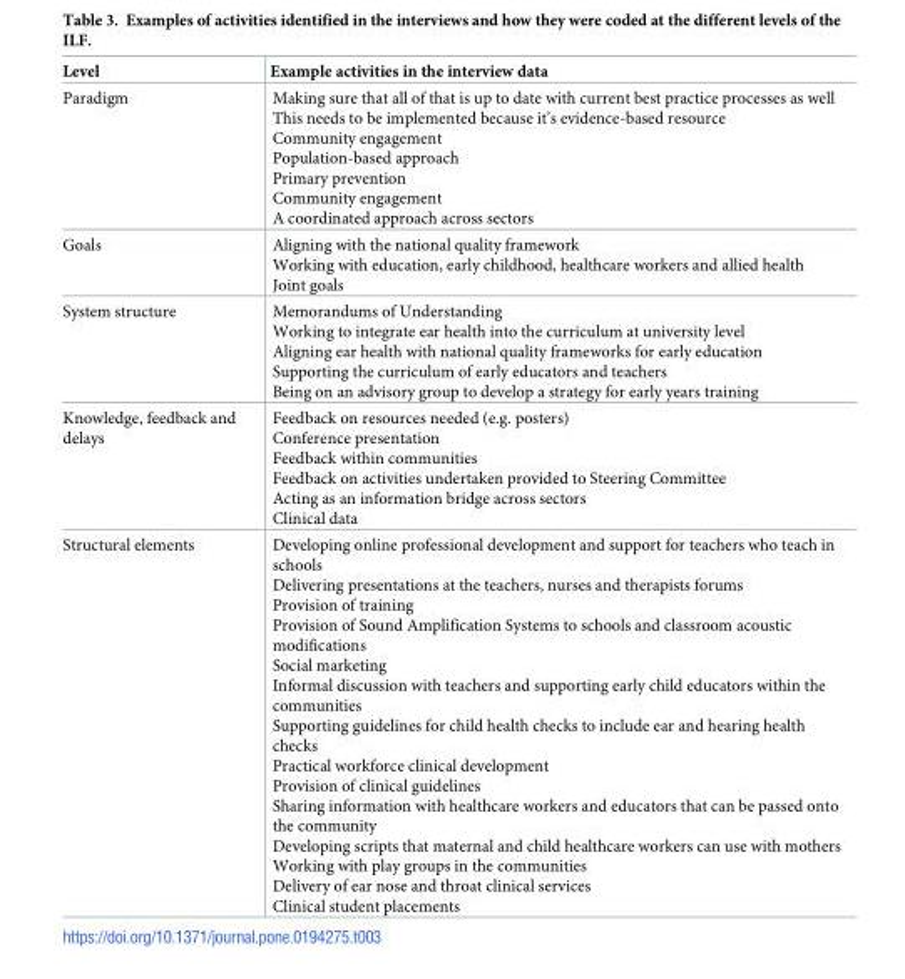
<table><thead><tr><td>Level</td><td>Example activities in the interview data</td></tr></thead><tbody><tr><td>Paradigm</td><td>Making sure that all of that is up to date with current best practice processes as well This needs to be implemented because it’s evidence-based resource Community engagement Population-based approach Primary prevention Community engagement A coordinated approach across sectors</td></tr><tr><td>Goals</td><td>Aligning with the national quality framework Working with education, early childhood, healthcare workers and allied health Joint goals</td></tr><tr><td>System structure</td><td>Memorandums of Understanding Working to integrate ear health into the curriculum at university level Aligning ear health with national quality frameworks for early education Supporting the curriculum of early educators and teachers Being on an advisory group to develop a strategy for early years training</td></tr><tr><td>Knowledge, feedback and delays</td><td>Feedback on resources needed (e.g. posters) Conference presentation Feedback within communities Feedback on activities undertaken provided to Steering Committee Acting as an information bridge across sectors Clinical data</td></tr><tr><td>Structural elements</td><td>Developing online professional development and support for teachers who teach in schools Delivering presentations at the teachers, nurses and therapists forums Provision of training Provision of Sound Amplification Systems to schools and classroom acoustic modifications Social marketing Informal discussion with teachers and supporting early child educators within the communities Supporting guidelines for child health checks to include ear and hearing health checks Practical workforce clinical development Provision of clinical guidelines Sharing information with healthcare workers and educators that can be passed onto the community Developing scripts that maternal and child healthcare workers can use with mothers Working with play groups in the communities Delivery of ear nose and throat clinical services Clinical student placements</td></tr></tbody></table>